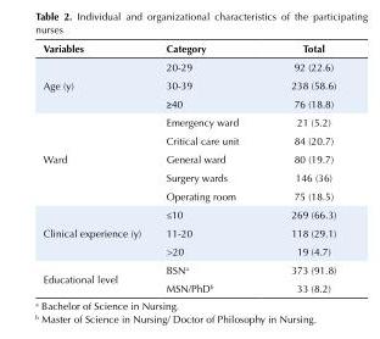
<table><tbody><tr><td>Variables</td><td>Category</td><td>Total</td></tr><tr><td rowspan="3">Age (y)</td><td>20-29</td><td>92 (22.6)</td></tr><tr><td>30-39</td><td>238 (58.6)</td></tr><tr><td>≥40</td><td>76 (18.8)</td></tr><tr><td rowspan="5">Ward</td><td>Emergency ward</td><td>21 (5.2)</td></tr><tr><td>Critical care unit</td><td>84 (20.7)</td></tr><tr><td>General ward</td><td>80 (19.7)</td></tr><tr><td>Surgery wards</td><td>146 (36)</td></tr><tr><td>Operating room</td><td>75 (18.5)</td></tr><tr><td rowspan="3">Clinical experience (y)</td><td>≤10</td><td>269 (66.3)</td></tr><tr><td>11-20</td><td>118 (29.1)</td></tr><tr><td>&gt;20</td><td>19 (4.7)</td></tr><tr><td rowspan="2">Educational level</td><td>BSN<sup>a</sup></td><td>373 (91.8)</td></tr><tr><td>MSN/PhD<sup>b</sup></td><td>33 (8.2)</td></tr></tbody></table>